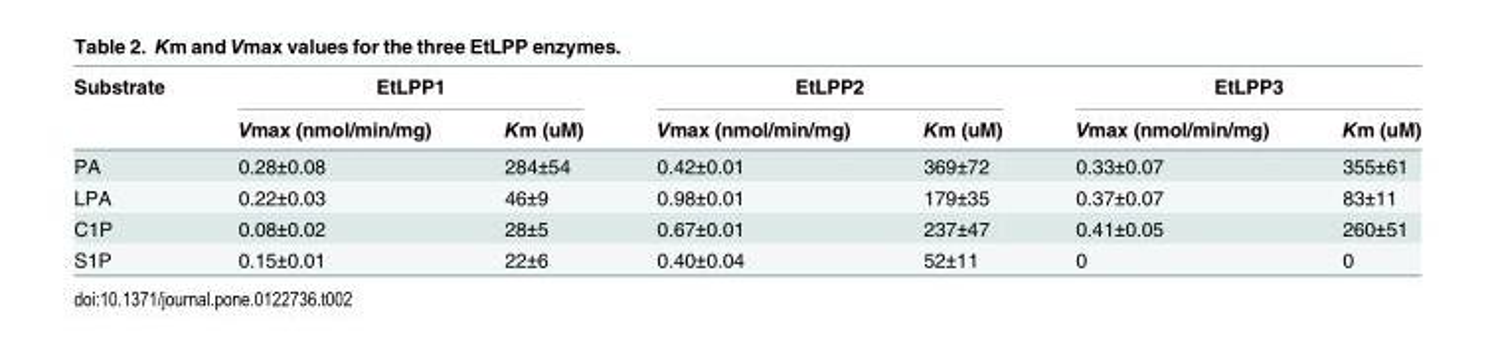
<table><thead><tr><td rowspan="2">Substrate</td><td colspan="2">EtLPP1</td><td colspan="2">EtLPP2</td><td colspan="2">EtLPP3</td></tr><tr><td>Vmax (nmol/min/mg)</td><td>Km (uM)</td><td>Vmax (nmol/min/mg)</td><td>Km (uM)</td><td>Vmax (nmol/min/mg)</td><td>Km (uM)</td></tr></thead><tbody><tr><td>PA</td><td>0.28±0.08</td><td>284±54</td><td>0.42±0.01</td><td>369±72</td><td>0.33±0.07</td><td>355±61</td></tr><tr><td>LPA</td><td>0.22±0.03</td><td>46±9</td><td>0.98±0.01</td><td>179±35</td><td>0.37±0.07</td><td>83±11</td></tr><tr><td>C1P</td><td>0.08±0.02</td><td>28±5</td><td>0.67±0.01</td><td>237±47</td><td>0.41±0.05</td><td>260±51</td></tr><tr><td>S1P</td><td>0.15±0.01</td><td>22±6</td><td>0.40±0.04</td><td>52±11</td><td>0</td><td>0</td></tr></tbody></table>